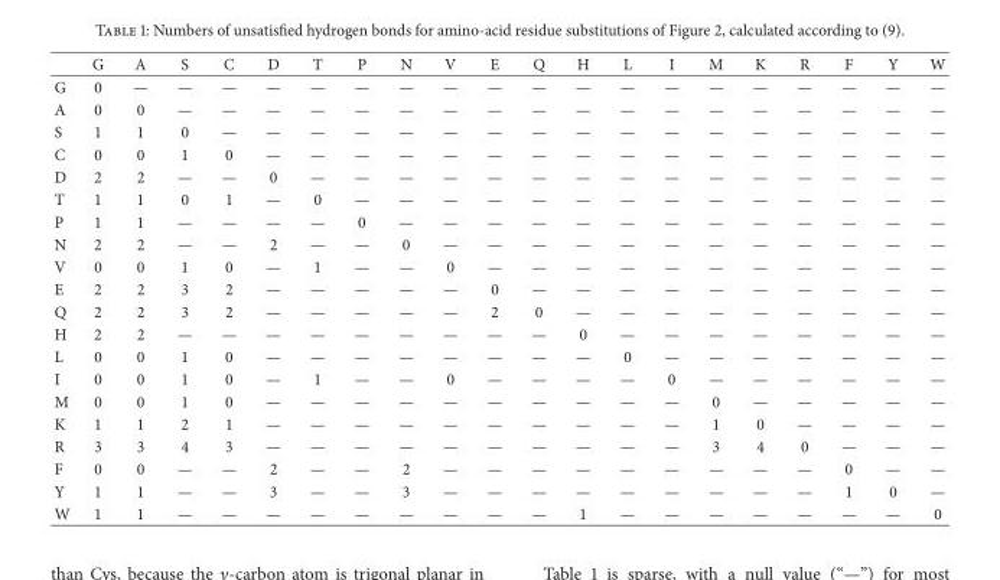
<table><thead><tr><td></td><td>G</td><td>A</td><td>S</td><td>C</td><td>D</td><td>T</td><td>P</td><td>N</td><td>V</td><td>E</td><td>Q</td><td>H</td><td>L</td><td>I</td><td>M</td><td>K</td><td>R</td><td>F</td><td>Y</td><td>W</td></tr></thead><tbody><tr><td>G</td><td>0</td><td>—</td><td>—</td><td>—</td><td>—</td><td>—</td><td>—</td><td>—</td><td>—</td><td>—</td><td>—</td><td>—</td><td>—</td><td>—</td><td>—</td><td>—</td><td>—</td><td>—</td><td>—</td><td>—</td></tr><tr><td>A</td><td>0</td><td>0</td><td>—</td><td>—</td><td>—</td><td>—</td><td>—</td><td>—</td><td>—</td><td>—</td><td>—</td><td>—</td><td>—</td><td>—</td><td>—</td><td>—</td><td>—</td><td>—</td><td>—</td><td>—</td></tr><tr><td>S</td><td>1</td><td>1</td><td>0</td><td>—</td><td>—</td><td>—</td><td>—</td><td>—</td><td>—</td><td>—</td><td>—</td><td>—</td><td>—</td><td>—</td><td>—</td><td>—</td><td>—</td><td>—</td><td>—</td><td>—</td></tr><tr><td>C</td><td>0</td><td>0</td><td>1</td><td>0</td><td>—</td><td>—</td><td>—</td><td>—</td><td>—</td><td>—</td><td>—</td><td>—</td><td>—</td><td>—</td><td>—</td><td>—</td><td>—</td><td>—</td><td>—</td><td>—</td></tr><tr><td>D</td><td>2</td><td>2</td><td>—</td><td>—</td><td>0</td><td>—</td><td>—</td><td>—</td><td>—</td><td>—</td><td>—</td><td>—</td><td>—</td><td>—</td><td>—</td><td>—</td><td>—</td><td>—</td><td>—</td><td>—</td></tr><tr><td>T</td><td>1</td><td>1</td><td>0</td><td>1</td><td>—</td><td>0</td><td>—</td><td>—</td><td>—</td><td>—</td><td>—</td><td>—</td><td>—</td><td>—</td><td>—</td><td>—</td><td>—</td><td>—</td><td>—</td><td>—</td></tr><tr><td>P</td><td>1</td><td>1</td><td>—</td><td>—</td><td>—</td><td>—</td><td>0</td><td>—</td><td>—</td><td>—</td><td>—</td><td>—</td><td>—</td><td>—</td><td>—</td><td>—</td><td>—</td><td>—</td><td>—</td><td>—</td></tr><tr><td>N</td><td>2</td><td>2</td><td>—</td><td>—</td><td>2</td><td>—</td><td>—</td><td>0</td><td>—</td><td>—</td><td>—</td><td>—</td><td>—</td><td>—</td><td>—</td><td>—</td><td>—</td><td>—</td><td>—</td><td>—</td></tr><tr><td>V</td><td>0</td><td>0</td><td>1</td><td>0</td><td>—</td><td>1</td><td>—</td><td>—</td><td>0</td><td>—</td><td>—</td><td>—</td><td>—</td><td>—</td><td>—</td><td>—</td><td>—</td><td>—</td><td>—</td><td>—</td></tr><tr><td>E</td><td>2</td><td>2</td><td>3</td><td>2</td><td>—</td><td>—</td><td>—</td><td>—</td><td>—</td><td>0</td><td>—</td><td>—</td><td>—</td><td>—</td><td>—</td><td>—</td><td>—</td><td>—</td><td>—</td><td>—</td></tr><tr><td>Q</td><td>2</td><td>2</td><td>3</td><td>2</td><td>—</td><td>—</td><td>—</td><td>—</td><td>—</td><td>2</td><td>0</td><td>—</td><td>—</td><td>—</td><td>—</td><td>—</td><td>—</td><td>—</td><td>—</td><td>—</td></tr><tr><td>H</td><td>2</td><td>2</td><td>—</td><td>—</td><td>—</td><td>—</td><td>—</td><td>—</td><td>—</td><td>—</td><td>—</td><td>0</td><td>—</td><td>—</td><td>—</td><td>—</td><td>—</td><td>—</td><td>—</td><td>—</td></tr><tr><td>L</td><td>0</td><td>0</td><td>1</td><td>0</td><td>—</td><td>—</td><td>—</td><td>—</td><td>—</td><td>—</td><td>—</td><td>—</td><td>0</td><td>—</td><td>—</td><td>—</td><td>—</td><td>—</td><td>—</td><td>—</td></tr><tr><td>I</td><td>0</td><td>0</td><td>1</td><td>0</td><td>—</td><td>1</td><td>—</td><td>—</td><td>0</td><td>—</td><td>—</td><td>—</td><td>—</td><td>0</td><td>—</td><td>—</td><td>—</td><td>—</td><td>—</td><td>—</td></tr><tr><td>M</td><td>0</td><td>0</td><td>1</td><td>0</td><td>—</td><td>—</td><td>—</td><td>—</td><td>—</td><td>—</td><td>—</td><td>—</td><td>—</td><td>—</td><td>0</td><td>—</td><td>—</td><td>—</td><td>—</td><td>—</td></tr><tr><td>K</td><td>1</td><td>1</td><td>2</td><td>1</td><td>—</td><td>—</td><td>—</td><td>—</td><td>—</td><td>—</td><td>—</td><td>—</td><td>—</td><td>—</td><td>1</td><td>0</td><td>—</td><td>—</td><td>—</td><td>—</td></tr><tr><td>R</td><td>3</td><td>3</td><td>4</td><td>3</td><td>—</td><td>—</td><td>—</td><td>—</td><td>—</td><td>—</td><td>—</td><td>—</td><td>—</td><td>—</td><td>3</td><td>4</td><td>0</td><td>—</td><td>—</td><td>—</td></tr><tr><td>F</td><td>0</td><td>0</td><td>—</td><td>—</td><td>2</td><td>—</td><td>—</td><td>2</td><td>—</td><td>—</td><td>—</td><td>—</td><td>—</td><td>—</td><td>—</td><td>—</td><td>—</td><td>0</td><td>—</td><td>—</td></tr><tr><td>Y</td><td>1</td><td>1</td><td>—</td><td>—</td><td>3</td><td>—</td><td>—</td><td>3</td><td>—</td><td>—</td><td>—</td><td>—</td><td>—</td><td>—</td><td>—</td><td>—</td><td>—</td><td>1</td><td>0</td><td>—</td></tr><tr><td>W</td><td>1</td><td>1</td><td>—</td><td>—</td><td>—</td><td>—</td><td>—</td><td>—</td><td>—</td><td>—</td><td>—</td><td>1</td><td>—</td><td>—</td><td>—</td><td>—</td><td>—</td><td>—</td><td>—</td><td>0</td></tr></tbody></table>